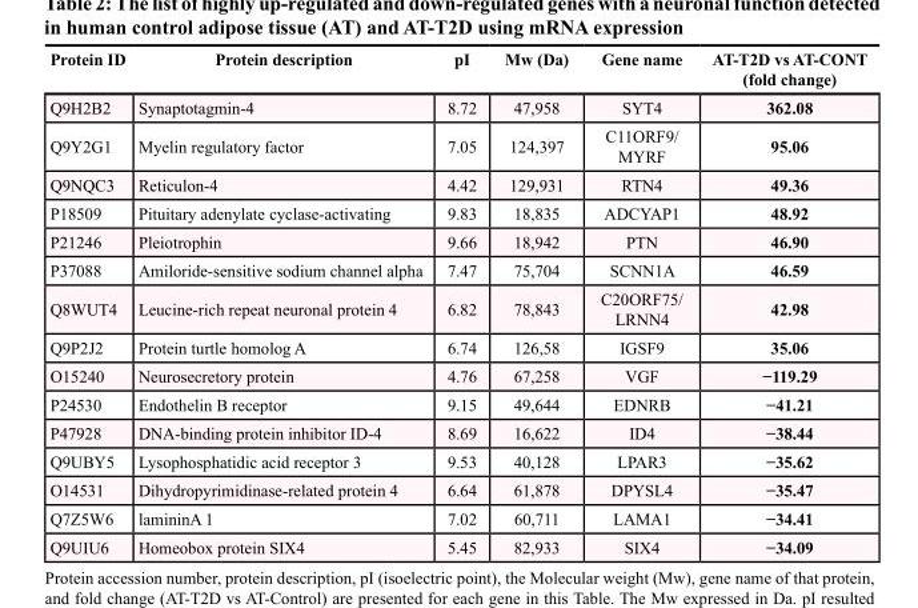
<table><thead><tr><td>Protein ID</td><td>Protein description</td><td>pI</td><td>Mw (Da)</td><td>Gene name</td><td>AT-T2D vs AT-CONT (fold change)</td></tr></thead><tbody><tr><td>Q9H2B2</td><td>Synaptotagmin-4</td><td>8.72</td><td>47,958</td><td>SYT4</td><td>362.08</td></tr><tr><td>Q9Y2G1</td><td>Myelin regulatory factor</td><td>7.05</td><td>124,397</td><td>C11ORF9/ MYRF</td><td>95.06</td></tr><tr><td>Q9NQC3</td><td>Reticulon-4</td><td>4.42</td><td>129,931</td><td>RTN4</td><td>49.36</td></tr><tr><td>P18509</td><td>Pituitary adenylate cyclase-activating</td><td>9.83</td><td>18,835</td><td>ADCYAP1</td><td>48.92</td></tr><tr><td>P21246</td><td>Pleiotrophin</td><td>9.66</td><td>18,942</td><td>PTN</td><td>46.90</td></tr><tr><td>P37088</td><td>Amiloride-sensitive sodium channel alpha</td><td>7.47</td><td>75,704</td><td>SCNN1A</td><td>46.59</td></tr><tr><td>Q8WUT4</td><td>Leucine-rich repeat neuronal protein 4</td><td>6.82</td><td>78,843</td><td>C20ORF75/ LRNN4</td><td>42.98</td></tr><tr><td>Q9P2J2</td><td>Protein turtle homolog A</td><td>6.74</td><td>126,58</td><td>IGSF9</td><td>35.06</td></tr><tr><td>O15240</td><td>Neurosecretory protein</td><td>4.76</td><td>67,258</td><td>VGF</td><td>−119.29</td></tr><tr><td>P24530</td><td>Endothelin B receptor</td><td>9.15</td><td>49,644</td><td>EDNRB</td><td>−41.21</td></tr><tr><td>P47928</td><td>DNA-binding protein inhibitor ID-4</td><td>8.69</td><td>16,622</td><td>ID4</td><td>−38.44</td></tr><tr><td>Q9UBY5</td><td>Lysophosphatidic acid receptor 3</td><td>9.53</td><td>40,128</td><td>LPAR3</td><td>−35.62</td></tr><tr><td>O14531</td><td>Dihydropyrimidinase-related protein 4</td><td>6.64</td><td>61,878</td><td>DPYSL4</td><td>−35.47</td></tr><tr><td>Q7Z5W6</td><td>lamininA 1</td><td>7.02</td><td>60,711</td><td>LAMA1</td><td>−34.41</td></tr><tr><td>Q9UIU6</td><td>Homeobox protein SIX4</td><td>5.45</td><td>82,933</td><td>SIX4</td><td>−34.09</td></tr></tbody></table>